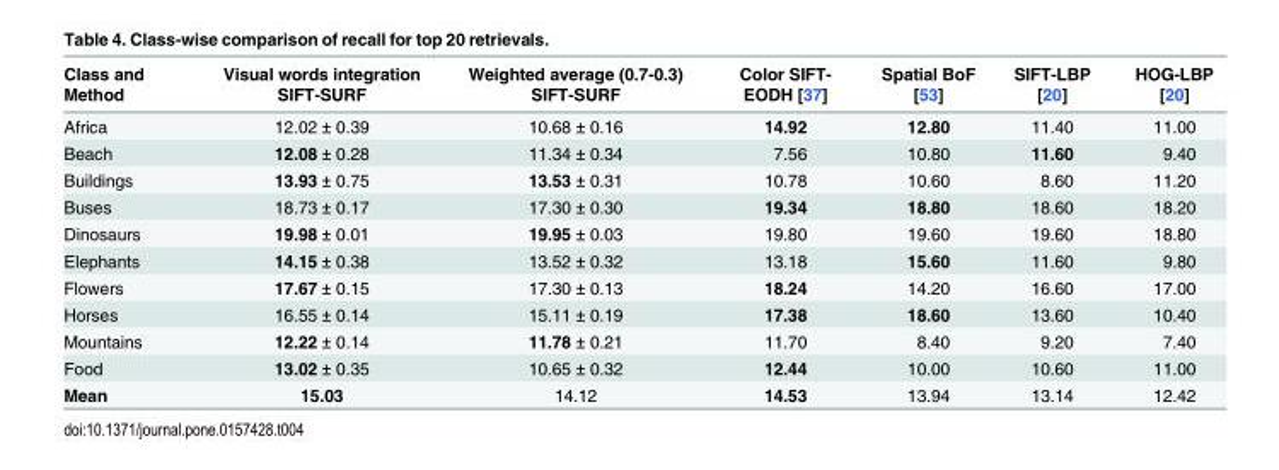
<table><thead><tr><td>Class and Method</td><td>Visual words integration SIFT-SURF</td><td>Weighted average (0.7-0.3) SIFT-SURF</td><td>Color SIFT- EODH [37]</td><td>Spatial BoF [53]</td><td>SIFT-LBP [20]</td><td>HOG-LBP [20]</td></tr></thead><tbody><tr><td>Africa</td><td>12.02 ± 0.39</td><td>10.68 ± 0.16</td><td>14.92</td><td>12.80</td><td>11.40</td><td>11.00</td></tr><tr><td>Beach</td><td>12.08 ± 0.28</td><td>11.34 ± 0.34</td><td>7.56</td><td>10.80</td><td>11.60</td><td>9.40</td></tr><tr><td>Buildings</td><td>13.93 ± 0.75</td><td>13.53 ± 0.31</td><td>10.78</td><td>10.60</td><td>8.60</td><td>11.20</td></tr><tr><td>Buses</td><td>18.73 ± 0.17</td><td>17.30 ± 0.30</td><td>19.34</td><td>18.80</td><td>18.60</td><td>18.20</td></tr><tr><td>Dinosaurs</td><td>19.98 ± 0.01</td><td>19.95 ± 0.03</td><td>19.80</td><td>19.60</td><td>19.60</td><td>18.80</td></tr><tr><td>Elephants</td><td>14.15 ± 0.38</td><td>13.52 ± 0.32</td><td>13.18</td><td>15.60</td><td>11.60</td><td>9.80</td></tr><tr><td>Flowers</td><td>17.67 ± 0.15</td><td>17.30 ± 0.13</td><td>18.24</td><td>14.20</td><td>16.60</td><td>17.00</td></tr><tr><td>Horses</td><td>16.55 ± 0.14</td><td>15.11 ± 0.19</td><td>17.38</td><td>18.60</td><td>13.60</td><td>10.40</td></tr><tr><td>Mountains</td><td>12.22 ± 0.14</td><td>11.78 ± 0.21</td><td>11.70</td><td>8.40</td><td>9.20</td><td>7.40</td></tr><tr><td>Food</td><td>13.02 ± 0.35</td><td>10.65 ± 0.32</td><td>12.44</td><td>10.00</td><td>10.60</td><td>11.00</td></tr><tr><td>Mean</td><td>15.03</td><td>14.12</td><td>14.53</td><td>13.94</td><td>13.14</td><td>12.42</td></tr></tbody></table>